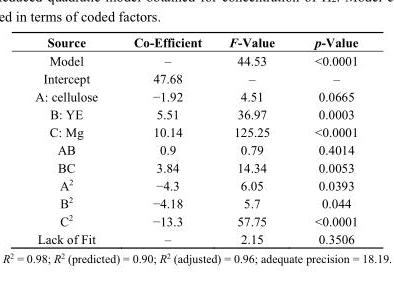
<table><thead><tr><td>Source</td><td>Co-Efficient</td><td>F-Value</td><td>p-Value</td></tr></thead><tbody><tr><td>Model</td><td>–</td><td>44.53</td><td>&lt;0.0001</td></tr><tr><td>Intercept</td><td>47.68</td><td>–</td><td>–</td></tr><tr><td>A: cellulose</td><td>−1.92</td><td>4.51</td><td>0.0665</td></tr><tr><td>B: YE</td><td>5.51</td><td>36.97</td><td>0.0003</td></tr><tr><td>C: Mg</td><td>10.14</td><td>125.25</td><td>&lt;0.0001</td></tr><tr><td>AB</td><td>0.9</td><td>0.79</td><td>0.4014</td></tr><tr><td>BC</td><td>3.84</td><td>14.34</td><td>0.0053</td></tr><tr><td>A<sup>2</sup></td><td>−4.3</td><td>6.05</td><td>0.0393</td></tr><tr><td>B<sup>2</sup></td><td>−4.18</td><td>5.7</td><td>0.044</td></tr><tr><td>C<sup>2</sup></td><td>−13.3</td><td>57.75</td><td>&lt;0.0001</td></tr><tr><td>Lack of Fit</td><td>–</td><td>2.15</td><td>0.3506</td></tr></tbody></table>